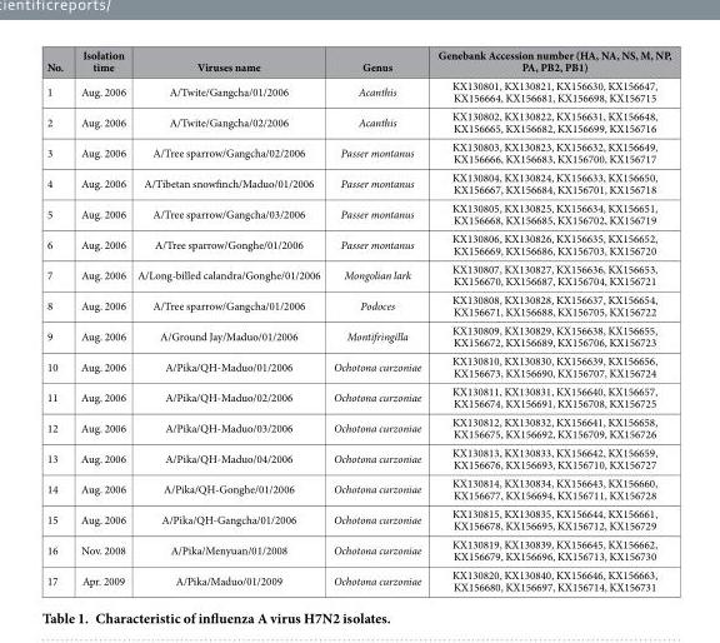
<table><thead><tr><td>No.</td><td>Isolation time</td><td>Viruses name</td><td>Genus</td><td>Genebank Accession number (HA, NA, NS, M, NP, PA, PB2, PB1)</td></tr></thead><tbody><tr><td>1</td><td>Aug. 2006</td><td>A/Twite/Gangcha/01/2006</td><td>Acanthis</td><td>KX130801, KX130821, KX156630, KX156647, KX156664, KX156681, KX156698, KX156715</td></tr><tr><td>2</td><td>Aug. 2006</td><td>A/Twite/Gangcha/02/2006</td><td>Acanthis</td><td>KX130802, KX130822, KX156631, KX156648, KX156665, KX156682, KX156699, KX156716</td></tr><tr><td>3</td><td>Aug. 2006</td><td>A/Tree sparrow/Gangcha/02/2006</td><td>Passer montanus</td><td>KX130803, KX130823, KX156632, KX156649, KX156666, KX156683, KX156700, KX156717</td></tr><tr><td>4</td><td>Aug. 2006</td><td>A/Tibetan snowfinch/Maduo/01/2006</td><td>Passer montanus</td><td>KX130804, KX130824, KX156633, KX156650, KX156667, KX156684, KX156701, KX156718</td></tr><tr><td>5</td><td>Aug. 2006</td><td>A/Tree sparrow/Gangcha/03/2006</td><td>Passer montanus</td><td>KX130805, KX130825, KX156634, KX156651, KX156668, KX156685, KX156702, KX156719</td></tr><tr><td>6</td><td>Aug. 2006</td><td>A/Tree sparrow/Gonghe/01/2006</td><td>Passer montanus</td><td>KX130806, KX130826, KX156635, KX156652, KX156669, KX156686, KX156703, KX156720</td></tr><tr><td>7</td><td>Aug. 2006</td><td>A/Long-billed calandra/Gonghe/01/2006</td><td>Mongolian lark</td><td>KX130807, KX130827, KX156636, KX156653, KX156670, KX156687, KX156704, KX156721</td></tr><tr><td>8</td><td>Aug. 2006</td><td>A/Tree sparrow/Gangcha/01/2006</td><td>Podoces</td><td>KX130808, KX130828, KX156637, KX156654, KX156671, KX156688, KX156705, KX156722</td></tr><tr><td>9</td><td>Aug. 2006</td><td>A/Ground Jay/Maduo/01/2006</td><td>Montifringilla</td><td>KX130809, KX130829, KX156638, KX156655, KX156672, KX156689, KX156706, KX156723</td></tr><tr><td>10</td><td>Aug. 2006</td><td>A/Pika/QH-Maduo/01/2006</td><td>Ochotona curzoniae</td><td>KX130810, KX130830, KX156639, KX156656, KX156673, KX156690, KX156707, KX156724</td></tr><tr><td>11</td><td>Aug. 2006</td><td>A/Pika/QH-Maduo/02/2006</td><td>Ochotona curzoniae</td><td>KX130811, KX130831, KX156640, KX156657, KX156674, KX156691, KX156708, KX156725</td></tr><tr><td>12</td><td>Aug. 2006</td><td>A/Pika/QH-Maduo/03/2006</td><td>Ochotona curzoniae</td><td>KX130812, KX130832, KX156641, KX156658, KX156675, KX156692, KX156709, KX156726</td></tr><tr><td>13</td><td>Aug. 2006</td><td>A/Pika/QH-Maduo/04/2006</td><td>Ochotona curzoniae</td><td>KX130813, KX130833, KX156642, KX156659, KX156676, KX156693, KX156710, KX156727</td></tr><tr><td>14</td><td>Aug. 2006</td><td>A/Pika/QH-Gonghe/01/2006</td><td>Ochotona curzoniae</td><td>KX130814, KX130834, KX156643, KX156660, KX156677, KX156694, KX156711, KX156728</td></tr><tr><td>15</td><td>Aug. 2006</td><td>A/Pika/QH-Gangcha/01/2006</td><td>Ochotona curzoniae</td><td>KX130815, KX130835, KX156644, KX156661, KX156678, KX156695, KX156712, KX156729</td></tr><tr><td>16</td><td>Nov. 2008</td><td>A/Pika/Menyuan/01/2008</td><td>Ochotona curzoniae</td><td>KX130819, KX130839, KX156645, KX156662, KX156679, KX156696, KX156713, KX156730</td></tr><tr><td>17</td><td>Apr. 2009</td><td>A/Pika/Maduo/01/2009</td><td>Ochotona curzoniae</td><td>KX130820, KX130840, KX156646, KX156663, KX156680, KX156697, KX156714, KX156731</td></tr></tbody></table>